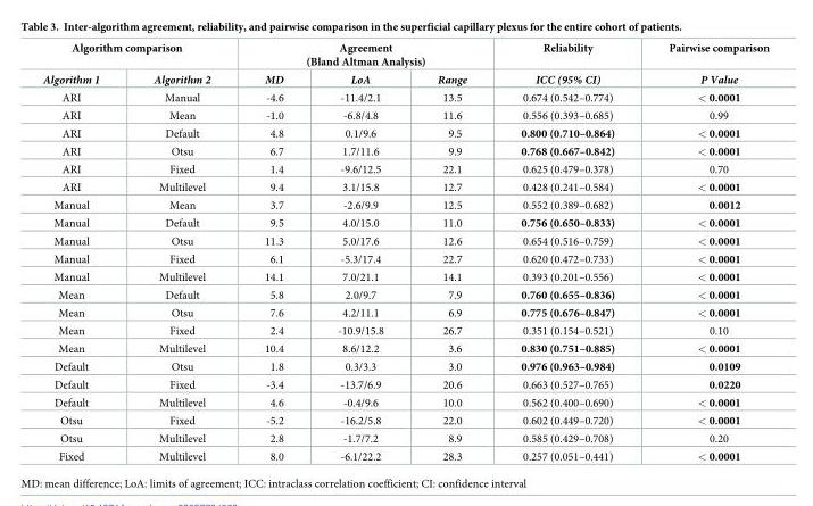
<table><thead><tr><td colspan="2">Algorithm comparison</td><td colspan="3">Agreement (Bland Altman Analysis)</td><td rowspan="2">Reliability ICC (95% CI)</td><td rowspan="2">Pairwise comparison P Value</td></tr><tr><td>Algorithm 1</td><td>Algorithm 2</td><td>MD</td><td>LoA</td><td>Range</td></tr></thead><tbody><tr><td>ARI</td><td>Manual</td><td>-4.6</td><td>-11.4/2.1</td><td>13.5</td><td>0.674 (0.542–0.774)</td><td>&lt; 0.0001</td></tr><tr><td>ARI</td><td>Mean</td><td>-1.0</td><td>-6.8/4.8</td><td>11.6</td><td>0.556 (0.393–0.685)</td><td>0.99</td></tr><tr><td>ARI</td><td>Default</td><td>4.8</td><td>0.1/9.6</td><td>9.5</td><td>0.800 (0.710–0.864)</td><td>&lt; 0.0001</td></tr><tr><td>ARI</td><td>Otsu</td><td>6.7</td><td>1.7/11.6</td><td>9.9</td><td>0.768 (0.667–0.842)</td><td>&lt; 0.0001</td></tr><tr><td>ARI</td><td>Fixed</td><td>1.4</td><td>-9.6/12.5</td><td>22.1</td><td>0.625 (0.479–0.378)</td><td>0.70</td></tr><tr><td>ARI</td><td>Multilevel</td><td>9.4</td><td>3.1/15.8</td><td>12.7</td><td>0.428 (0.241–0.584)</td><td>&lt; 0.0001</td></tr><tr><td>Manual</td><td>Mean</td><td>3.7</td><td>-2.6/9.9</td><td>12.5</td><td>0.552 (0.389–0.682)</td><td>0.0012</td></tr><tr><td>Manual</td><td>Default</td><td>9.5</td><td>4.0/15.0</td><td>11.0</td><td>0.756 (0.650–0.833)</td><td>&lt; 0.0001</td></tr><tr><td>Manual</td><td>Otsu</td><td>11.3</td><td>5.0/17.6</td><td>12.6</td><td>0.654 (0.516–0.759)</td><td>&lt; 0.0001</td></tr><tr><td>Manual</td><td>Fixed</td><td>6.1</td><td>-5.3/17.4</td><td>22.7</td><td>0.620 (0.472–0.733)</td><td>&lt; 0.0001</td></tr><tr><td>Manual</td><td>Multilevel</td><td>14.1</td><td>7.0/21.1</td><td>14.1</td><td>0.393 (0.201–0.556)</td><td>&lt; 0.0001</td></tr><tr><td>Mean</td><td>Default</td><td>5.8</td><td>2.0/9.7</td><td>7.9</td><td>0.760 (0.655–0.836)</td><td>&lt; 0.0001</td></tr><tr><td>Mean</td><td>Otsu</td><td>7.6</td><td>4.2/11.1</td><td>6.9</td><td>0.775 (0.676–0.847)</td><td>&lt; 0.0001</td></tr><tr><td>Mean</td><td>Fixed</td><td>2.4</td><td>-10.9/15.8</td><td>26.7</td><td>0.351 (0.154–0.521)</td><td>0.10</td></tr><tr><td>Mean</td><td>Multilevel</td><td>10.4</td><td>8.6/12.2</td><td>3.6</td><td>0.830 (0.751–0.885)</td><td>&lt; 0.0001</td></tr><tr><td>Default</td><td>Otsu</td><td>1.8</td><td>0.3/3.3</td><td>3.0</td><td>0.976 (0.963–0.984)</td><td>0.0109</td></tr><tr><td>Default</td><td>Fixed</td><td>-3.4</td><td>-13.7/6.9</td><td>20.6</td><td>0.663 (0.527–0.765)</td><td>0.0220</td></tr><tr><td>Default</td><td>Multilevel</td><td>4.6</td><td>-0.4/9.6</td><td>10.0</td><td>0.562 (0.400–0.690)</td><td>&lt; 0.0001</td></tr><tr><td>Otsu</td><td>Fixed</td><td>-5.2</td><td>-16.2/5.8</td><td>22.0</td><td>0.602 (0.449–0.720)</td><td>&lt; 0.0001</td></tr><tr><td>Otsu</td><td>Multilevel</td><td>2.8</td><td>-1.7/7.2</td><td>8.9</td><td>0.585 (0.429–0.708)</td><td>0.20</td></tr><tr><td>Fixed</td><td>Multilevel</td><td>8.0</td><td>-6.1/22.2</td><td>28.3</td><td>0.257 (0.051–0.441)</td><td>&lt; 0.0001</td></tr></tbody></table>